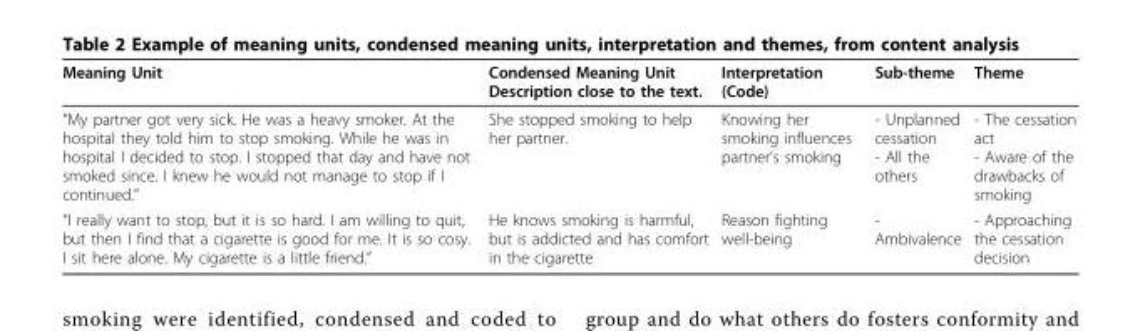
<table><thead><tr><td>Meaning Unit</td><td>Condensed Meaning Unit Description close to the text.</td><td>Interpretation (Code)</td><td>Sub-theme</td><td>Theme</td></tr></thead><tbody><tr><td>“My partner got very sick. He was a heavy smoker. At the hospital they told him to stop smoking. While he was in hospital I decided to stop. I stopped that day and have not smoked since. I knew he would not manage to stop if I continued.”</td><td>She stopped smoking to help her partner.</td><td>Knowing her smoking influences partner’s smoking</td><td>- Unplanned cessation - All the others</td><td>- The cessation act - Aware of the drawbacks of smoking</td></tr><tr><td>“I really want to stop, but it is so hard. I am willing to quit, but then I find that a cigarette is good for me. It is so cosy. I sit here alone. My cigarette is a little friend.”</td><td>He knows smoking is harmful, but is addicted and has comfort in the cigarette</td><td>Reason fighting well-being</td><td>- Ambivalence</td><td>- Approaching the cessation decision</td></tr></tbody></table>